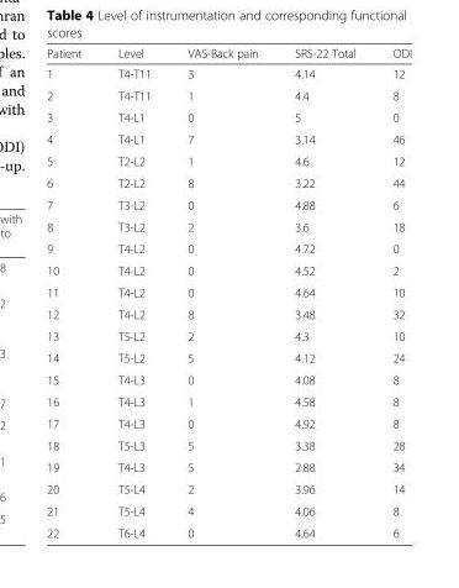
<table><thead><tr><td>Patient</td><td>Level</td><td>VAS-Back pain</td><td>SRS-22 Total</td><td>ODI</td></tr></thead><tbody><tr><td>1</td><td>T4-T11</td><td>3</td><td>4.14</td><td>12</td></tr><tr><td>2</td><td>T4-T11</td><td>1</td><td>4.4</td><td>8</td></tr><tr><td>3</td><td>T4-L1</td><td>0</td><td>5</td><td>0</td></tr><tr><td>4</td><td>T4-L1</td><td>7</td><td>3.14</td><td>46</td></tr><tr><td>5</td><td>T2-L2</td><td>1</td><td>4.6</td><td>12</td></tr><tr><td>6</td><td>T2-L2</td><td>8</td><td>3.22</td><td>44</td></tr><tr><td>7</td><td>T3-L2</td><td>0</td><td>4.88</td><td>6</td></tr><tr><td>8</td><td>T3-L2</td><td>2</td><td>3.6</td><td>18</td></tr><tr><td>9</td><td>T4-L2</td><td>0</td><td>4.72</td><td>0</td></tr><tr><td>10</td><td>T4-L2</td><td>0</td><td>4.52</td><td>2</td></tr><tr><td>11</td><td>T4-L2</td><td>0</td><td>4.64</td><td>10</td></tr><tr><td>12</td><td>T4-L2</td><td>8</td><td>3.48</td><td>32</td></tr><tr><td>13</td><td>T5-L2</td><td>2</td><td>4.3</td><td>10</td></tr><tr><td>14</td><td>T5-L2</td><td>5</td><td>4.12</td><td>24</td></tr><tr><td>15</td><td>T4-L3</td><td>0</td><td>4.08</td><td>8</td></tr><tr><td>16</td><td>T4-L3</td><td>1</td><td>4.58</td><td>8</td></tr><tr><td>17</td><td>T4-L3</td><td>0</td><td>4.92</td><td>8</td></tr><tr><td>18</td><td>T5-L3</td><td>5</td><td>3.38</td><td>28</td></tr><tr><td>19</td><td>T4-L3</td><td>5</td><td>2.88</td><td>34</td></tr><tr><td>20</td><td>T5-L4</td><td>2</td><td>3.96</td><td>14</td></tr><tr><td>21</td><td>T5-L4</td><td>4</td><td>4.06</td><td>8</td></tr><tr><td>22</td><td>T6-L4</td><td>0</td><td>4.64</td><td>6</td></tr></tbody></table>